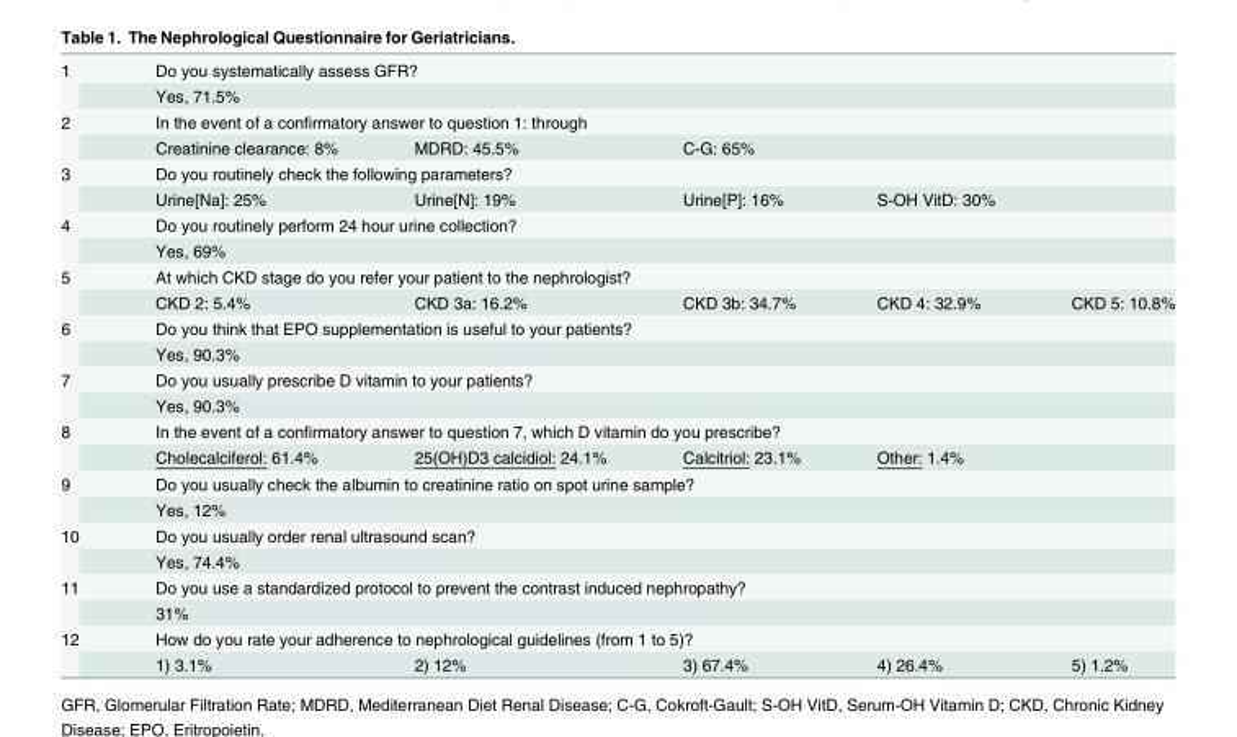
<table><tbody><tr><td rowspan="2">1</td><td colspan="5">Do you systematically assess GFR?</td></tr><tr><td colspan="5">Yes, 71.5%</td></tr><tr><td rowspan="2">2</td><td colspan="5">In the event of a confirmatory answer to question 1: through</td></tr><tr><td>Creatinine clearance: 8%</td><td>MDRD: 45.5%</td><td>C-G: 65%</td><td></td><td></td></tr><tr><td rowspan="2">3</td><td colspan="5">Do you routinely check the following parameters?</td></tr><tr><td>Urine[Na]: 25%</td><td>Urine[N]: 19%</td><td>Urine[P]: 16%</td><td>S-OH VitD: 30%</td><td></td></tr><tr><td rowspan="2">4</td><td colspan="5">Do you routinely perform 24 hour urine collection?</td></tr><tr><td colspan="5">Yes, 69%</td></tr><tr><td rowspan="2">5</td><td colspan="5">At which CKD stage do you refer your patient to the nephrologist?</td></tr><tr><td>CKD 2: 5.4%</td><td>CKD 3a: 16.2%</td><td>CKD 3b: 34.7%</td><td>CKD 4: 32.9%</td><td>CKD 5: 10.8%</td></tr><tr><td rowspan="2">6</td><td colspan="5">Do you think that EPO supplementation is useful to your patients?</td></tr><tr><td colspan="5">Yes, 90.3%</td></tr><tr><td rowspan="2">7</td><td colspan="5">Do you usually prescribe D vitamin to your patients?</td></tr><tr><td colspan="5">Yes, 90.3%</td></tr><tr><td rowspan="2">8</td><td colspan="5">In the event of a confirmatory answer to question 7, which D vitamin do you prescribe?</td></tr><tr><td>Cholecalciferol: 61.4%</td><td>25(OH)D3 calcidiol: 24.1%</td><td>Calcitriol: 23.1%</td><td>Other: 1.4%</td><td></td></tr><tr><td rowspan="2">9</td><td colspan="5">Do you usually check the albumin to creatinine ratio on spot urine sample?</td></tr><tr><td colspan="5">Yes, 12%</td></tr><tr><td rowspan="2">10</td><td colspan="5">Do you usually order renal ultrasound scan?</td></tr><tr><td colspan="5">Yes, 74.4%</td></tr><tr><td rowspan="2">11</td><td colspan="5">Do you use a standardized protocol to prevent the contrast induced nephropathy?</td></tr><tr><td colspan="5">31%</td></tr><tr><td rowspan="2">12</td><td colspan="5">How do you rate your adherence to nephrological guidelines (from 1 to 5)?</td></tr><tr><td>1) 3.1%</td><td>2) 12%</td><td>3) 67.4%</td><td>4) 26.4%</td><td>5) 1.2%</td></tr></tbody></table>